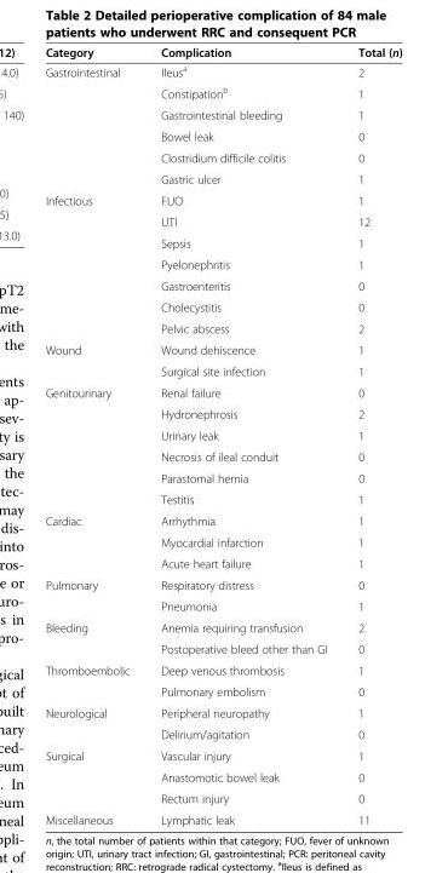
<table><thead><tr><td>Category</td><td>Complication</td><td>Total (n)</td></tr></thead><tbody><tr><td rowspan="6">Gastrointestinal</td><td>Ileus<sup>a</sup></td><td>2</td></tr><tr><td>Constipation<sup>b</sup></td><td>1</td></tr><tr><td>Gastrointestinal bleeding</td><td>1</td></tr><tr><td>Bowel leak</td><td>0</td></tr><tr><td>Clostridium difficile colitis</td><td>0</td></tr><tr><td>Gastric ulcer</td><td>1</td></tr><tr><td rowspan="7">Infectious</td><td>FUO</td><td>1</td></tr><tr><td>UTI</td><td>12</td></tr><tr><td>Sepsis</td><td>1</td></tr><tr><td>Pyelonephritis</td><td>1</td></tr><tr><td>Gastroenteritis</td><td>0</td></tr><tr><td>Cholecystitis</td><td>0</td></tr><tr><td>Pelvic abscess</td><td>2</td></tr><tr><td rowspan="2">Wound</td><td>Wound dehiscence</td><td>1</td></tr><tr><td>Surgical site infection</td><td>1</td></tr><tr><td rowspan="6">Genitourinary</td><td>Renal failure</td><td>0</td></tr><tr><td>Hydronephrosis</td><td>2</td></tr><tr><td>Urinary leak</td><td>1</td></tr><tr><td>Necrosis of ileal conduit</td><td>0</td></tr><tr><td>Parastomal hernia</td><td>0</td></tr><tr><td>Testitis</td><td>1</td></tr><tr><td rowspan="3">Cardiac</td><td>Arrhythmia</td><td>1</td></tr><tr><td>Myocardial infarction</td><td>1</td></tr><tr><td>Acute heart failure</td><td>1</td></tr><tr><td rowspan="2">Pulmonary</td><td>Respiratory distress</td><td>0</td></tr><tr><td>Pneumonia</td><td>1</td></tr><tr><td rowspan="2">Bleeding</td><td>Anemia requiring transfusion</td><td>2</td></tr><tr><td>Postoperative bleed other than GI</td><td>0</td></tr><tr><td rowspan="2">Thromboembolic</td><td>Deep venous thrombosis</td><td>1</td></tr><tr><td>Pulmonary embolism</td><td>0</td></tr><tr><td rowspan="2">Neurological</td><td>Peripheral neuropathy</td><td>1</td></tr><tr><td>Delirium/agitation</td><td>0</td></tr><tr><td rowspan="3">Surgical</td><td>Vascular injury</td><td>1</td></tr><tr><td>Anastomotic bowel leak</td><td>0</td></tr><tr><td>Rectum injury</td><td>0</td></tr><tr><td>Miscellaneous</td><td>Lymphatic leak</td><td>11</td></tr></tbody></table>